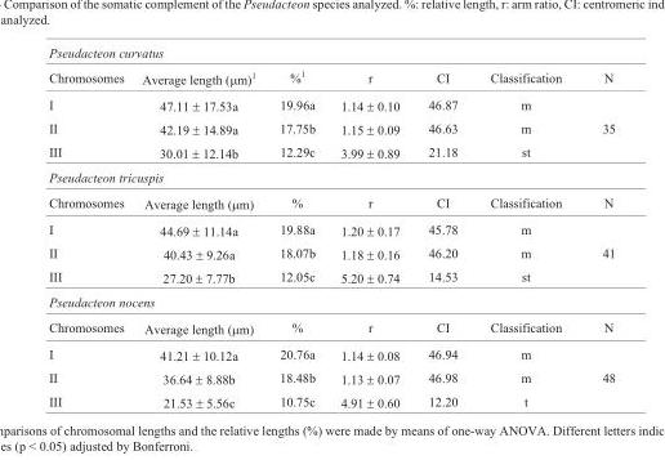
<table><thead><tr><td colspan="7">Pseudacteon curvatus</td></tr><tr><td>Chromosomes</td><td>Average length (μm)<sup>1</sup></td><td>%<sup>1</sup></td><td>r</td><td>CI</td><td>Classification</td><td>N</td></tr></thead><tbody><tr><td>I</td><td>47.11 ± 17.53a</td><td>19.96a</td><td>1.14 ± 0.10</td><td>46.87</td><td>m</td><td></td></tr><tr><td>II</td><td>42.19 ± 14.89a</td><td>17.75b</td><td>1.15 ± 0.09</td><td>46.63</td><td>m</td><td>35</td></tr><tr><td>III</td><td>30.01 ± 12.14b</td><td>12.29c</td><td>3.99 ± 0.89</td><td>21.18</td><td>st</td><td></td></tr><tr><td colspan="7">Pseudacteon tricuspis</td></tr><tr><td>Chromosomes</td><td>Average length (μm)</td><td>%</td><td>r</td><td>CI</td><td>Classification</td><td>N</td></tr><tr><td>I</td><td>44.69 ± 11.14a</td><td>19.88a</td><td>1.20 ± 0.17</td><td>45.78</td><td>m</td><td></td></tr><tr><td>II</td><td>40.43 ± 9.26a</td><td>18.07b</td><td>1.18 ± 0.16</td><td>46.20</td><td>m</td><td>41</td></tr><tr><td>III</td><td>27.20 ± 7.77b</td><td>12.05c</td><td>5.20 ± 0.74</td><td>14.53</td><td>st</td><td></td></tr><tr><td colspan="7">Pseudacteon nocens</td></tr><tr><td>Chromosomes</td><td>Average length (μm)</td><td>%</td><td>r</td><td>CI</td><td>Classification</td><td>N</td></tr><tr><td>I</td><td>41.21 ± 10.12a</td><td>20.76a</td><td>1.14 ± 0.08</td><td>46.94</td><td>m</td><td></td></tr><tr><td>II</td><td>36.64 ± 8.88b</td><td>18.48b</td><td>1.13 ± 0.07</td><td>46.98</td><td>m</td><td>48</td></tr><tr><td>III</td><td>21.53 ± 5.56c</td><td>10.75c</td><td>4.91 ± 0.60</td><td>12.20</td><td>t</td><td></td></tr></tbody></table>